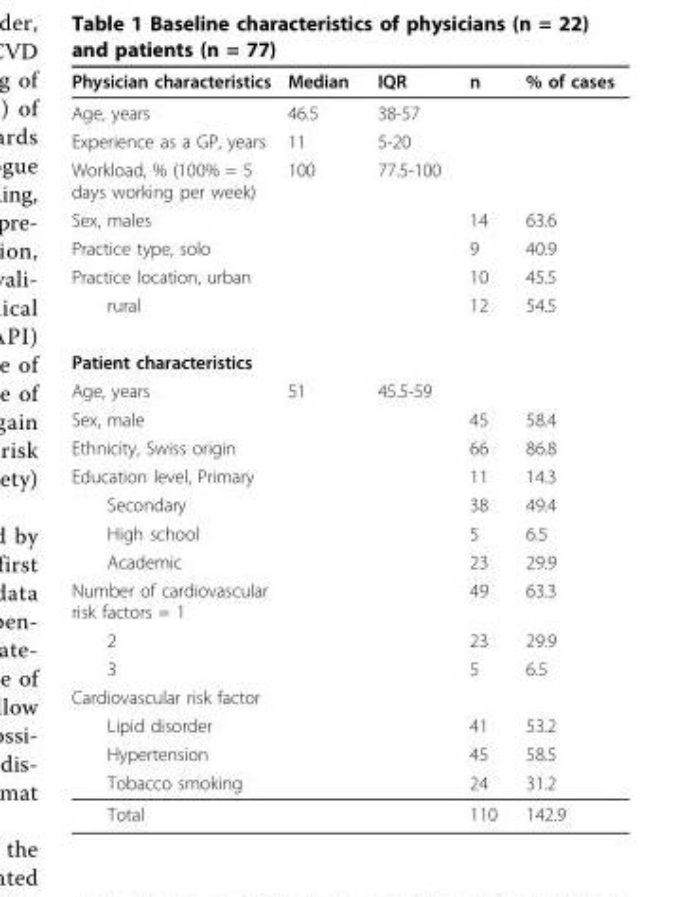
<table><thead><tr><td>Physician characteristics</td><td>Median</td><td>IQR</td><td>n</td><td>% of cases</td></tr></thead><tbody><tr><td>Age, years</td><td>46.5</td><td>38-57</td><td></td><td></td></tr><tr><td>Experience as a GP, years</td><td>11</td><td>5-20</td><td></td><td></td></tr><tr><td>Workload, % (100% = 5 days working per week)</td><td>100</td><td>77.5-100</td><td></td><td></td></tr><tr><td>Sex, males</td><td></td><td></td><td>14</td><td>63.6</td></tr><tr><td>Practice type, solo</td><td></td><td></td><td>9</td><td>40.9</td></tr><tr><td>Practice location, urban</td><td></td><td></td><td>10</td><td>45.5</td></tr><tr><td>rural</td><td></td><td></td><td>12</td><td>54.5</td></tr><tr><td colspan="5">Patient characteristics</td></tr><tr><td>Age, years</td><td>51</td><td>45.5-59</td><td></td><td></td></tr><tr><td>Sex, male</td><td></td><td></td><td>45</td><td>58.4</td></tr><tr><td>Ethnicity, Swiss origin</td><td></td><td></td><td>66</td><td>86.8</td></tr><tr><td>Education level, Primary</td><td></td><td></td><td>11</td><td>14.3</td></tr><tr><td>Secondary</td><td></td><td></td><td>38</td><td>49.4</td></tr><tr><td>High school</td><td></td><td></td><td>5</td><td>6.5</td></tr><tr><td>Academic</td><td></td><td></td><td>23</td><td>29.9</td></tr><tr><td>Number of cardiovascular risk factors = 1</td><td></td><td></td><td>49</td><td>63.3</td></tr><tr><td>2</td><td></td><td></td><td>23</td><td>29.9</td></tr><tr><td>3</td><td></td><td></td><td>5</td><td>6.5</td></tr><tr><td colspan="5">Cardiovascular risk factor</td></tr><tr><td>Lipid disorder</td><td></td><td></td><td>41</td><td>53.2</td></tr><tr><td>Hypertension</td><td></td><td></td><td>45</td><td>58.5</td></tr><tr><td>Tobacco smoking</td><td></td><td></td><td>24</td><td>31.2</td></tr><tr><td>Total</td><td></td><td></td><td>110</td><td>142.9</td></tr></tbody></table>